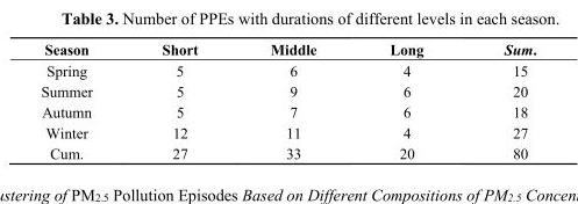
<table><thead><tr><td>Season</td><td>Short</td><td>Middle</td><td>Long</td><td>Sum.</td></tr></thead><tbody><tr><td>Spring</td><td>5</td><td>6</td><td>4</td><td>15</td></tr><tr><td>Summer</td><td>5</td><td>9</td><td>6</td><td>20</td></tr><tr><td>Autumn</td><td>5</td><td>7</td><td>6</td><td>18</td></tr><tr><td>Winter</td><td>12</td><td>11</td><td>4</td><td>27</td></tr><tr><td>Cum.</td><td>27</td><td>33</td><td>20</td><td>80</td></tr></tbody></table>